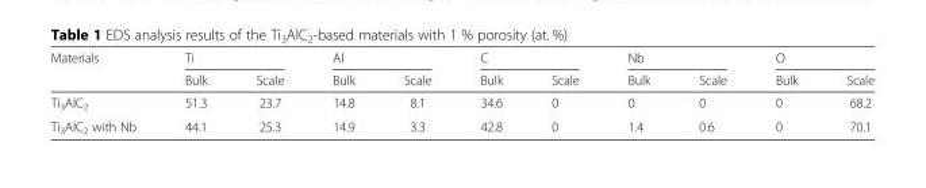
<table><thead><tr><td rowspan="2">Materials</td><td colspan="2">Ti</td><td colspan="2">Al</td><td colspan="2">C</td><td colspan="2">Nb</td><td colspan="2">O</td></tr><tr><td>Bulk</td><td>Scale</td><td>Bulk</td><td>Scale</td><td>Bulk</td><td>Scale</td><td>Bulk</td><td>Scale</td><td>Bulk</td><td>Scale</td></tr></thead><tbody><tr><td>Ti<sub>3</sub>AlC<sub>2</sub></td><td>51.3</td><td>23.7</td><td>14.8</td><td>8.1</td><td>34.6</td><td>0</td><td>0</td><td>0</td><td>0</td><td>68.2</td></tr><tr><td>Ti<sub>3</sub>AlC<sub>2</sub> with Nb</td><td>44.1</td><td>25.3</td><td>14.9</td><td>3.3</td><td>42.8</td><td>0</td><td>1.4</td><td>0.6</td><td>0</td><td>70.1</td></tr></tbody></table>